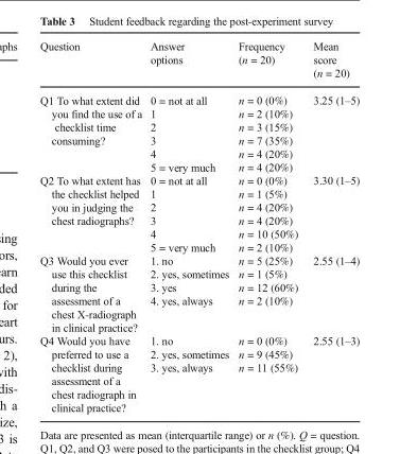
<table><thead><tr><td>Question</td><td>Answer options</td><td>Frequency (n = 20)</td><td>Mean score (n = 20)</td></tr></thead><tbody><tr><td>Q1 To what extent did you find the use of a checklist time consuming?</td><td>0 = not at all 1 2 3 4 5 = very much</td><td>n = 0 (0%) n = 2 (10%) n = 3 (15%) n = 7 (35%) n = 4 (20%) n = 4 (20%)</td><td>3.25 (1–5)</td></tr><tr><td>Q2 To what extent has the checklist helped you in judging the chest radiographs?</td><td>0 = not at all 1 2 3 4 5 = very much</td><td>n = 0 (0%) n = 1 (5%) n = 4 (20%) n = 4 (20%) n = 10 (50%) n = 2 (10%)</td><td>3.30 (1–5)</td></tr><tr><td>Q3 Would you ever use this checklist during the assessment of a chest X-radiograph in clinical practice?</td><td>1. no 2. yes, sometimes 3. yes 4. yes, always</td><td>n = 5 (25%) n = 1 (5%) n = 12 (60%) n = 2 (10%)</td><td>2.55 (1–4)</td></tr><tr><td>Q4 Would you have preferred to use a checklist during assessment of a chest radiograph in clinical practice?</td><td>1. no 2. yes, sometimes 3. yes, always</td><td>n = 0 (0%) n = 9 (45%) n = 11 (55%)</td><td>2.55 (1–3)</td></tr></tbody></table>